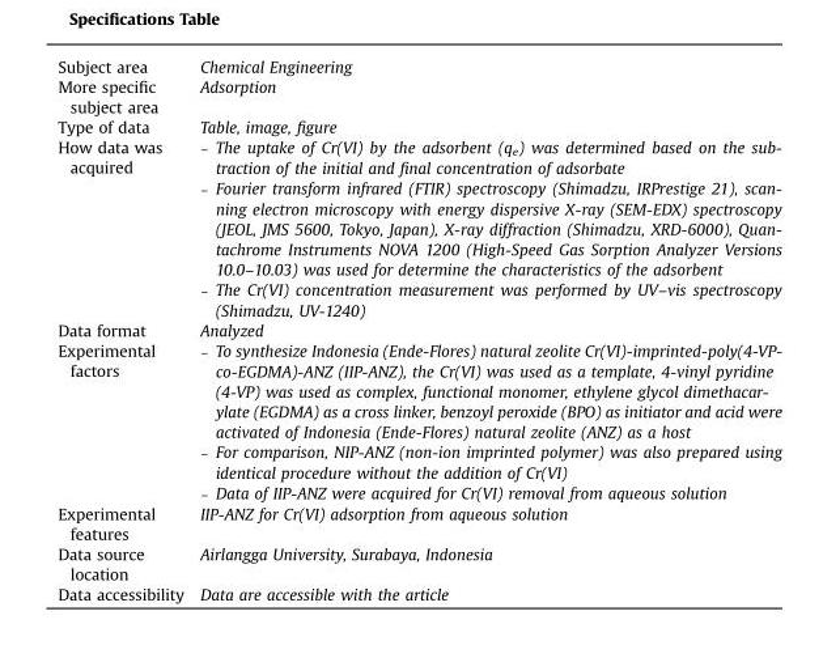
<table><tbody><tr><td>Subject area</td><td>Chemical Engineering</td></tr><tr><td>More specific subject area</td><td>Adsorption</td></tr><tr><td>Type of data</td><td>Table, image, figure</td></tr><tr><td>How data was acquired</td><td>– The uptake of Cr(VI) by the adsorbent (qe) was determined based on the sub- traction of the initial and final concentration of adsorbate – Fourier transform infrared (FTIR) spectroscopy (Shimadzu, IRPrestige 21), scan- ning electron microscopy with energy dispersive X-ray (SEM-EDX) spectroscopy (JEOL, JMS 5600, Tokyo, Japan), X-ray diffraction (Shimadzu, XRD-6000), Quan- tachrome Instruments NOVA 1200 (High-Speed Gas Sorption Analyzer Versions 10.0–10.03) was used for determine the characteristics of the adsorbent – The Cr(VI) concentration measurement was performed by UV–vis spectroscopy (Shimadzu, UV-1240)</td></tr><tr><td>Data format</td><td>Analyzed</td></tr><tr><td>Experimental factors</td><td>– To synthesize Indonesia (Ende-Flores) natural zeolite Cr(VI)-imprinted-poly(4-VP- co-EGDMA)-ANZ (IIP-ANZ), the Cr(VI) was used as a template, 4-vinyl pyridine (4-VP) was used as complex, functional monomer, ethylene glycol dimethacar- ylate (EGDMA) as a cross linker, benzoyl peroxide (BPO) as initiator and acid were activated of Indonesia (Ende-Flores) natural zeolite (ANZ) as a host – For comparison, NIP-ANZ (non-ion imprinted polymer) was also prepared using identical procedure without the addition of Cr(VI) – Data of IIP-ANZ were acquired for Cr(VI) removal from aqueous solution</td></tr><tr><td>Experimental features</td><td>IIP-ANZ for Cr(VI) adsorption from aqueous solution</td></tr><tr><td>Data source location</td><td>Airlangga University, Surabaya, Indonesia</td></tr><tr><td>Data accessibility</td><td>Data are accessible with the article</td></tr></tbody></table>